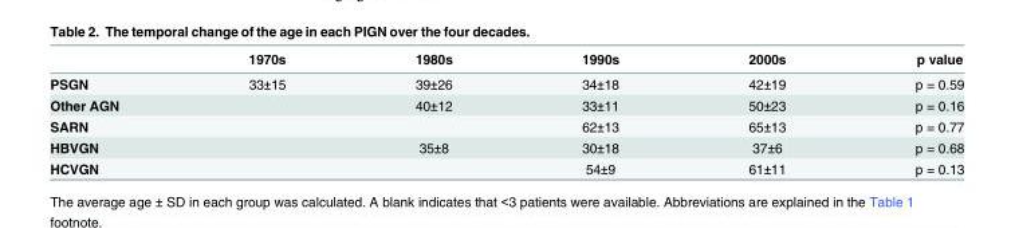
<table><thead><tr><td></td><td>1970s</td><td>1980s</td><td>1990s</td><td>2000s</td><td>p value</td></tr></thead><tbody><tr><td>PSGN</td><td>33±15</td><td>39±26</td><td>34±18</td><td>42±19</td><td>p = 0.59</td></tr><tr><td>Other AGN</td><td></td><td>40±12</td><td>33±11</td><td>50±23</td><td>p = 0.16</td></tr><tr><td>SARN</td><td></td><td></td><td>62±13</td><td>65±13</td><td>p = 0.77</td></tr><tr><td>HBVGN</td><td></td><td>35±8</td><td>30±18</td><td>37±6</td><td>p = 0.68</td></tr><tr><td>HCVGN</td><td></td><td></td><td>54±9</td><td>61±11</td><td>p = 0.13</td></tr></tbody></table>